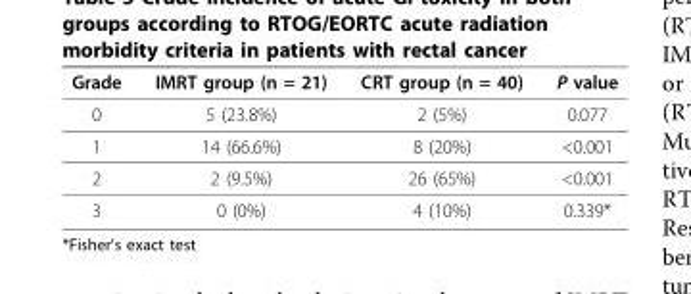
<table><thead><tr><td>Grade</td><td>IMRT group (n = 21)</td><td>CRT group (n = 40)</td><td>P value</td></tr></thead><tbody><tr><td>0</td><td>5 (23.8%)</td><td>2 (5%)</td><td>0.077</td></tr><tr><td>1</td><td>14 (66.6%)</td><td>8 (20%)</td><td>&lt;0.001</td></tr><tr><td>2</td><td>2 (9.5%)</td><td>26 (65%)</td><td>&lt;0.001</td></tr><tr><td>3</td><td>0 (0%)</td><td>4 (10%)</td><td>0.339*</td></tr></tbody></table>